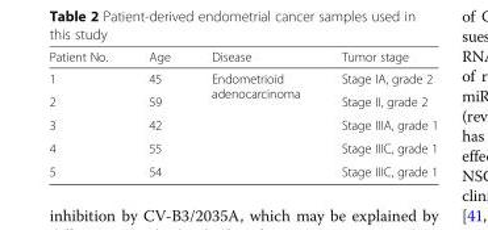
<table><thead><tr><td>Patient No.</td><td>Age</td><td>Disease</td><td>Tumor stage</td></tr></thead><tbody><tr><td>1</td><td>45</td><td rowspan="5">Endometrioid adenocarcinoma</td><td>Stage IA, grade 2</td></tr><tr><td>2</td><td>59</td><td>Stage II, grade 2</td></tr><tr><td>3</td><td>42</td><td>Stage IIIA, grade 1</td></tr><tr><td>4</td><td>55</td><td>Stage IIIC, grade 1</td></tr><tr><td>5</td><td>54</td><td>Stage IIIC, grade 1</td></tr></tbody></table>